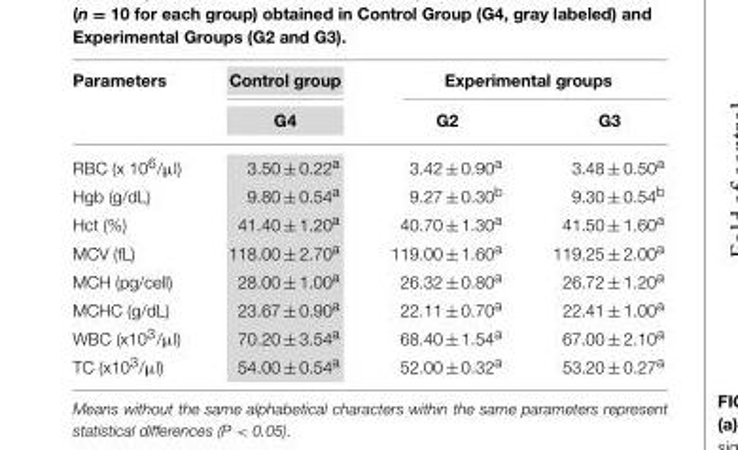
<table><thead><tr><td rowspan="2">Parameters</td><td rowspan="2">Control group G4</td><td colspan="2">Experimental groups</td></tr><tr><td>G2</td><td>G3</td></tr></thead><tbody><tr><td>RBC (x 10<sup>6</sup>/µl)</td><td>3.50 ± 0.22<sup>a</sup></td><td>3.42 ± 0.90<sup>a</sup></td><td>3.48 ± 0.50<sup>a</sup></td></tr><tr><td>Hgb (g/dL)</td><td>9.80 ± 0.54<sup>a</sup></td><td>9.27 ± 0.30<sup>b</sup></td><td>9.30 ± 0.54<sup>b</sup></td></tr><tr><td>Hct (%)</td><td>41.40 ± 1.20<sup>a</sup></td><td>40.70 ± 1.30<sup>a</sup></td><td>41.50 ± 1.60<sup>a</sup></td></tr><tr><td>MCV (fL)</td><td>118.00 ± 2.70<sup>a</sup></td><td>119.00 ± 1.60<sup>a</sup></td><td>119.25 ± 2.00<sup>a</sup></td></tr><tr><td>MCH (pg/cell)</td><td>28.00 ± 1.00<sup>a</sup></td><td>26.32 ± 0.80<sup>a</sup></td><td>26.72 ± 1.20<sup>a</sup></td></tr><tr><td>MCHC (g/dL)</td><td>23.67 ± 0.90<sup>a</sup></td><td>22.11 ± 0.70<sup>a</sup></td><td>22.41 ± 1.00<sup>a</sup></td></tr><tr><td>WBC (x10<sup>3</sup>/µl)</td><td>70.20 ± 3.54<sup>a</sup></td><td>68.40 ± 1.54<sup>a</sup></td><td>67.00 ± 2.10<sup>a</sup></td></tr><tr><td>TC (x10<sup>3</sup>/µl)</td><td>54.00 ± 0.54<sup>a</sup></td><td>52.00 ± 0.32<sup>a</sup></td><td>53.20 ± 0.27<sup>a</sup></td></tr></tbody></table>